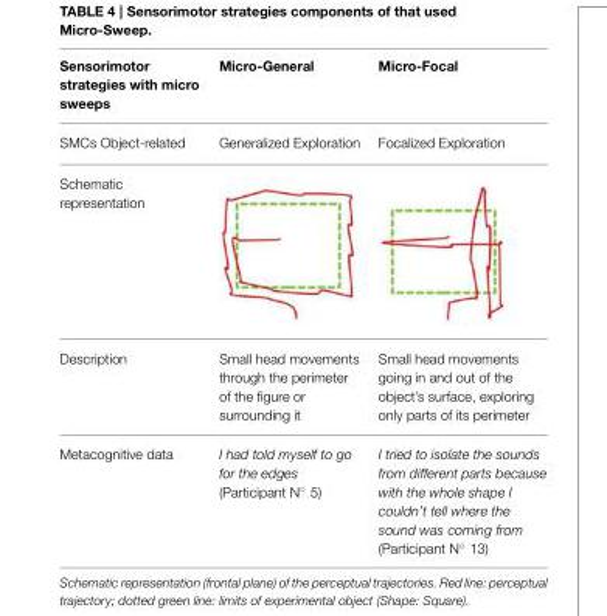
<table><thead><tr><td>Sensorimotor strategies with micro sweeps</td><td>Micro-General</td><td>Micro-Focal</td></tr></thead><tbody><tr><td>SMCs Object-related</td><td>Generalized Exploration</td><td>Focalized Exploration</td></tr><tr><td colspan="3">Schematic representation</td></tr><tr><td>Description</td><td>Small head movements through the perimeter of the figure or surrounding it</td><td>Small head movements going in and out of the object’s surface, exploring only parts of its perimeter</td></tr><tr><td>Metacognitive data</td><td>I had told myself to go for the edges (Participant N◦ 5)</td><td>I tried to isolate the sounds from different parts because with the whole shape I couldn’t tell where the sound was coming from (Participant N◦ 13)</td></tr></tbody></table>